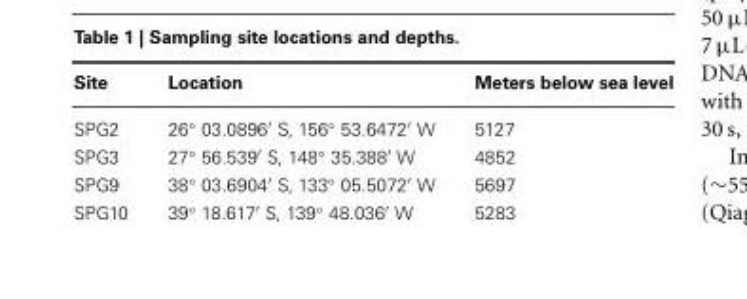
<table><thead><tr><td>Site</td><td>Location</td><td>Meters below sea level</td></tr></thead><tbody><tr><td>SPG2</td><td>26◦ 03.0896′ S, 156◦ 53.6472′ W</td><td>5127</td></tr><tr><td>SPG3</td><td>27◦ 56.539′ S, 148◦ 35.388′ W</td><td>4852</td></tr><tr><td>SPG9</td><td>38◦ 03.6904′ S, 133◦ 05.5072′ W</td><td>5697</td></tr><tr><td>SPG10</td><td>39◦ 18.617′ S, 139◦ 48.036′ W</td><td>5283</td></tr></tbody></table>